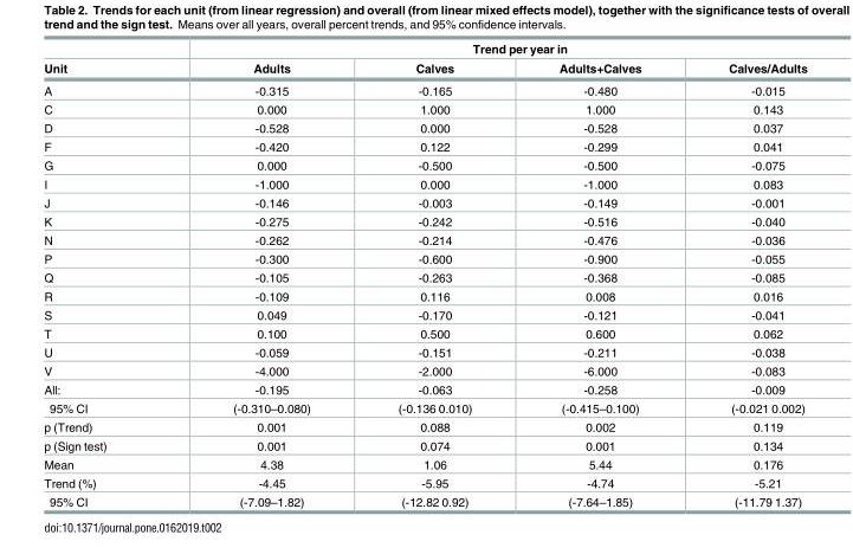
<table><thead><tr><td rowspan="2">Unit</td><td colspan="4">Trend per year in</td></tr><tr><td>Adults</td><td>Calves</td><td>Adults+Calves</td><td>Calves/Adults</td></tr></thead><tbody><tr><td>A</td><td>-0.315</td><td>-0.165</td><td>-0.480</td><td>-0.015</td></tr><tr><td>C</td><td>0.000</td><td>1.000</td><td>1.000</td><td>0.143</td></tr><tr><td>D</td><td>-0.528</td><td>0.000</td><td>-0.528</td><td>0.037</td></tr><tr><td>F</td><td>-0.420</td><td>0.122</td><td>-0.299</td><td>0.041</td></tr><tr><td>G</td><td>0.000</td><td>-0.500</td><td>-0.500</td><td>-0.075</td></tr><tr><td>I</td><td>-1.000</td><td>0.000</td><td>-1.000</td><td>0.083</td></tr><tr><td>J</td><td>-0.146</td><td>-0.003</td><td>-0.149</td><td>-0.001</td></tr><tr><td>K</td><td>-0.275</td><td>-0.242</td><td>-0.516</td><td>-0.040</td></tr><tr><td>N</td><td>-0.262</td><td>-0.214</td><td>-0.476</td><td>-0.036</td></tr><tr><td>P</td><td>-0.300</td><td>-0.600</td><td>-0.900</td><td>-0.055</td></tr><tr><td>Q</td><td>-0.105</td><td>-0.263</td><td>-0.368</td><td>-0.085</td></tr><tr><td>R</td><td>-0.109</td><td>0.116</td><td>0.008</td><td>0.016</td></tr><tr><td>S</td><td>0.049</td><td>-0.170</td><td>-0.121</td><td>-0.041</td></tr><tr><td>T</td><td>0.100</td><td>0.500</td><td>0.600</td><td>0.062</td></tr><tr><td>U</td><td>-0.059</td><td>-0.151</td><td>-0.211</td><td>-0.038</td></tr><tr><td>V</td><td>-4.000</td><td>-2.000</td><td>-6.000</td><td>-0.083</td></tr><tr><td>All:</td><td>-0.195</td><td>-0.063</td><td>-0.258</td><td>-0.009</td></tr><tr><td>95% CI</td><td>(-0.310–0.080)</td><td>(-0.136 0.010)</td><td>(-0.415–0.100)</td><td>(-0.021 0.002)</td></tr><tr><td>p (Trend)</td><td>0.001</td><td>0.088</td><td>0.002</td><td>0.119</td></tr><tr><td>p (Sign test)</td><td>0.001</td><td>0.074</td><td>0.001</td><td>0.134</td></tr><tr><td>Mean</td><td>4.38</td><td>1.06</td><td>5.44</td><td>0.176</td></tr><tr><td>Trend (%)</td><td>-4.45</td><td>-5.95</td><td>-4.74</td><td>-5.21</td></tr><tr><td>95% CI</td><td>(-7.09–1.82)</td><td>(-12.82 0.92)</td><td>(-7.64–1.85)</td><td>(-11.79 1.37)</td></tr></tbody></table>